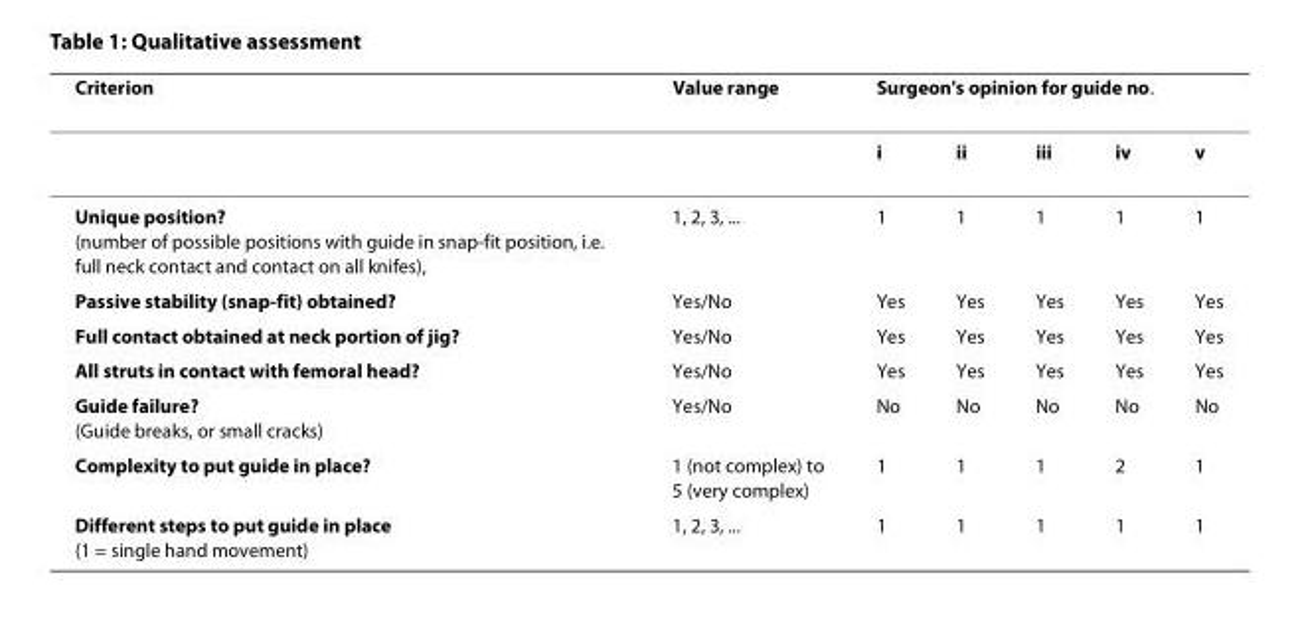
<table><thead><tr><td rowspan="2">Criterion</td><td rowspan="2">Value range</td><td colspan="5">Surgeon&#x27;s opinion for guide no.</td></tr><tr><td>i</td><td>ii</td><td>iii</td><td>iv</td><td>v</td></tr></thead><tbody><tr><td>Unique position? (number of possible positions with guide in snap-fit position, i.e. full neck contact and contact on all knifes),</td><td>1, 2, 3, ...</td><td>1</td><td>1</td><td>1</td><td>1</td><td>1</td></tr><tr><td>Passive stability (snap-fit) obtained?</td><td>Yes/No</td><td>Yes</td><td>Yes</td><td>Yes</td><td>Yes</td><td>Yes</td></tr><tr><td>Full contact obtained at neck portion of jig?</td><td>Yes/No</td><td>Yes</td><td>Yes</td><td>Yes</td><td>Yes</td><td>Yes</td></tr><tr><td>All struts in contact with femoral head?</td><td>Yes/No</td><td>Yes</td><td>Yes</td><td>Yes</td><td>Yes</td><td>Yes</td></tr><tr><td>Guide failure? (Guide breaks, or small cracks)</td><td>Yes/No</td><td>No</td><td>No</td><td>No</td><td>No</td><td>No</td></tr><tr><td>Complexity to put guide in place?</td><td>1 (not complex) to 5 (very complex)</td><td>1</td><td>1</td><td>1</td><td>2</td><td>1</td></tr><tr><td>Different steps to put guide in place (1 = single hand movement)</td><td>1, 2, 3, ...</td><td>1</td><td>1</td><td>1</td><td>1</td><td>1</td></tr></tbody></table>